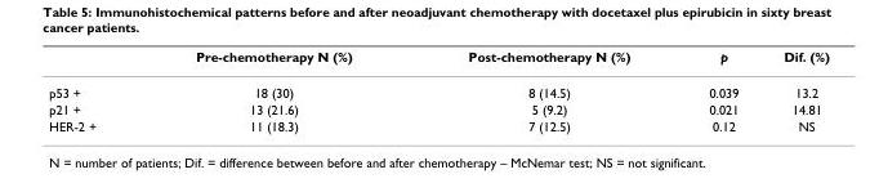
<table><thead><tr><td></td><td>Pre-chemotherapy N (%)</td><td>Post-chemotherapy N (%)</td><td>p</td><td>Dif. (%)</td></tr></thead><tbody><tr><td>p53 +</td><td>18 (30)</td><td>8 (14.5)</td><td>0.039</td><td>13.2</td></tr><tr><td>p21 +</td><td>13 (21.6)</td><td>5 (9.2)</td><td>0.021</td><td>14.81</td></tr><tr><td>HER-2 +</td><td>11 (18.3)</td><td>7 (12.5)</td><td>0.12</td><td>NS</td></tr></tbody></table>